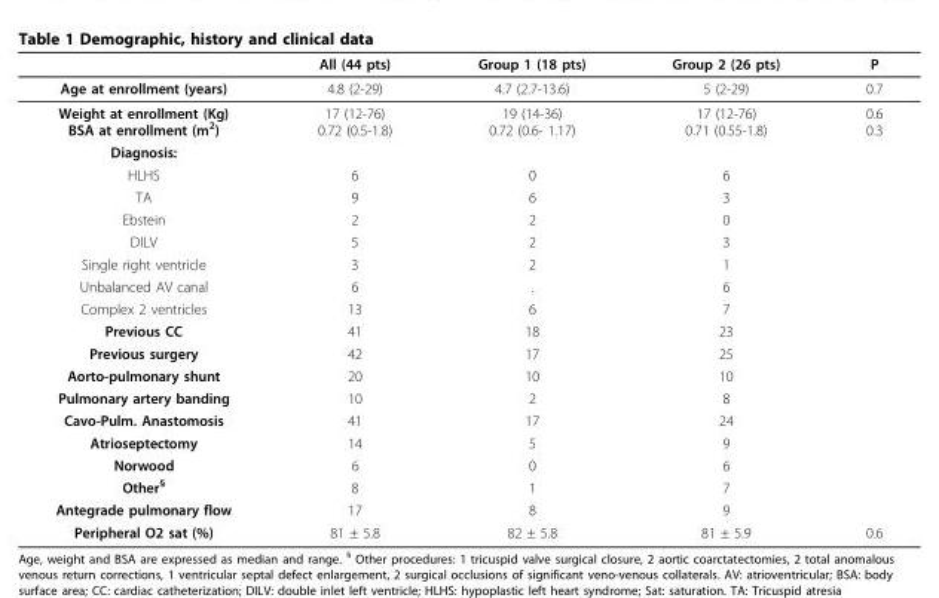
<table><thead><tr><td></td><td>All (44 pts)</td><td>Group 1 (18 pts)</td><td>Group 2 (26 pts)</td><td>P</td></tr></thead><tbody><tr><td>Age at enrollment (years)</td><td>4.8 (2-29)</td><td>4.7 (2.7-13.6)</td><td>5 (2-29)</td><td>0.7</td></tr><tr><td>Weight at enrollment (Kg) BSA at enrollment (m<sup>2</sup>)</td><td>17 (12-76) 0.72 (0.5-1.8)</td><td>19 (14-36) 0.72 (0.6- 1.17)</td><td>17 (12-76) 0.71 (0.55-1.8)</td><td>0.6 0.3</td></tr><tr><td colspan="5">Diagnosis:</td></tr><tr><td>HLHS</td><td>6</td><td>0</td><td>6</td><td></td></tr><tr><td>TA</td><td>9</td><td>6</td><td>3</td><td></td></tr><tr><td>Ebstein</td><td>2</td><td>2</td><td>0</td><td></td></tr><tr><td>DILV</td><td>5</td><td>2</td><td>3</td><td></td></tr><tr><td>Single right ventricle</td><td>3</td><td>2</td><td>1</td><td></td></tr><tr><td>Unbalanced AV canal</td><td>6</td><td>.</td><td>6</td><td></td></tr><tr><td>Complex 2 ventricles</td><td>13</td><td>6</td><td>7</td><td></td></tr><tr><td>Previous CC</td><td>41</td><td>18</td><td>23</td><td></td></tr><tr><td>Previous surgery</td><td>42</td><td>17</td><td>25</td><td></td></tr><tr><td>Aorto-pulmonary shunt</td><td>20</td><td>10</td><td>10</td><td></td></tr><tr><td>Pulmonary artery banding</td><td>10</td><td>2</td><td>8</td><td></td></tr><tr><td>Cavo-Pulm. Anastomosis</td><td>41</td><td>17</td><td>24</td><td></td></tr><tr><td>Atrioseptectomy</td><td>14</td><td>5</td><td>9</td><td></td></tr><tr><td>Norwood</td><td>6</td><td>0</td><td>6</td><td></td></tr><tr><td>Other<sup>§</sup></td><td>8</td><td>1</td><td>7</td><td></td></tr><tr><td>Antegrade pulmonary flow</td><td>17</td><td>8</td><td>9</td><td></td></tr><tr><td>Peripheral O2 sat (%)</td><td>81 ± 5.8</td><td>82 ± 5.8</td><td>81 ± 5.9</td><td>0.6</td></tr></tbody></table>